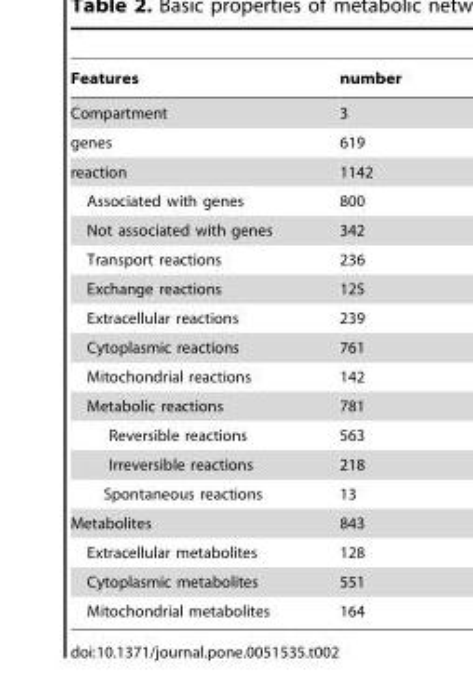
<table><thead><tr><td>Features</td><td>number</td></tr></thead><tbody><tr><td>Compartment</td><td>3</td></tr><tr><td>genes</td><td>619</td></tr><tr><td>reaction</td><td>1142</td></tr><tr><td>Associated with genes</td><td>800</td></tr><tr><td>Not associated with genes</td><td>342</td></tr><tr><td>Transport reactions</td><td>236</td></tr><tr><td>Exchange reactions</td><td>125</td></tr><tr><td>Extracellular reactions</td><td>239</td></tr><tr><td>Cytoplasmic reactions</td><td>761</td></tr><tr><td>Mitochondrial reactions</td><td>142</td></tr><tr><td>Metabolic reactions</td><td>781</td></tr><tr><td>Reversible reactions</td><td>563</td></tr><tr><td>Irreversible reactions</td><td>218</td></tr><tr><td>Spontaneous reactions</td><td>13</td></tr><tr><td>Metabolites</td><td>843</td></tr><tr><td>Extracellular metabolites</td><td>128</td></tr><tr><td>Cytoplasmic metabolites</td><td>551</td></tr><tr><td>Mitochondrial metabolites</td><td>164</td></tr></tbody></table>